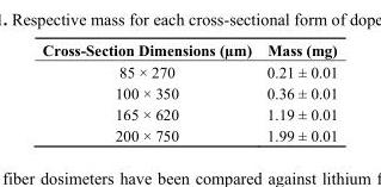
<table><thead><tr><td>Cross-Section Dimensions (µm)</td><td>Mass (mg)</td></tr></thead><tbody><tr><td>85 × 270</td><td>0.21 ± 0.01</td></tr><tr><td>100 × 350</td><td>0.36 ± 0.01</td></tr><tr><td>165 × 620</td><td>1.19 ± 0.01</td></tr><tr><td>200 × 750</td><td>1.99 ± 0.01</td></tr></tbody></table>